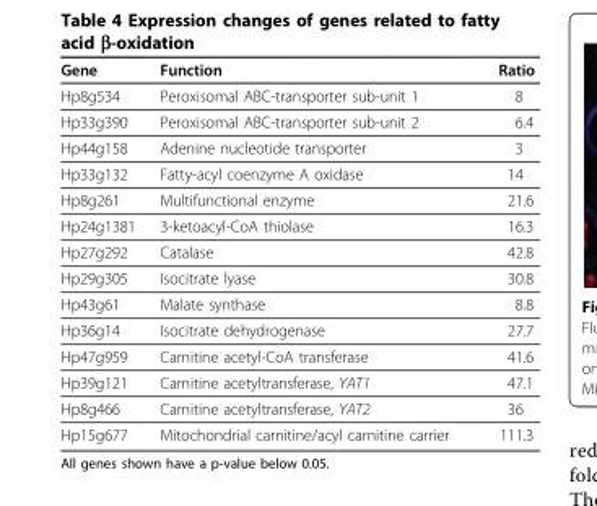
<table><thead><tr><td>Gene</td><td>Function</td><td>Ratio</td></tr></thead><tbody><tr><td>Hp8g534</td><td>Peroxisomal ABC-transporter sub-unit 1</td><td>8</td></tr><tr><td>Hp33g390</td><td>Peroxisomal ABC-transporter sub-unit 2</td><td>6.4</td></tr><tr><td>Hp44g158</td><td>Adenine nucleotide transporter</td><td>3</td></tr><tr><td>Hp33g132</td><td>Fatty-acyl coenzyme A oxidase</td><td>14</td></tr><tr><td>Hp8g261</td><td>Multifunctional enzyme</td><td>21.6</td></tr><tr><td>Hp24g1381</td><td>3-ketoacyl-CoA thiolase</td><td>16.3</td></tr><tr><td>Hp27g292</td><td>Catalase</td><td>42.8</td></tr><tr><td>Hp29g305</td><td>Isocitrate lyase</td><td>30.8</td></tr><tr><td>Hp43g61</td><td>Malate synthase</td><td>8.8</td></tr><tr><td>Hp36g14</td><td>Isocitrate dehydrogenase</td><td>27.7</td></tr><tr><td>Hp47g959</td><td>Carnitine acetyl-CoA transferase</td><td>41.6</td></tr><tr><td>Hp39g121</td><td>Carnitine acetyltransferase, YAT1</td><td>47.1</td></tr><tr><td>Hp8g466</td><td>Carnitine acetyltransferase, YAT2</td><td>36</td></tr><tr><td>Hp15g677</td><td>Mitochondrial carnitine/acyl carnitine carrier</td><td>111.3</td></tr></tbody></table>